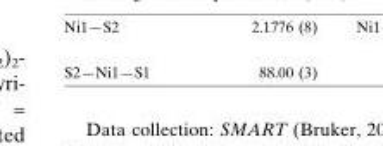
<table><tbody><tr><td>S2—Ni1—S1</td><td>88.00 (3)</td></tr></tbody></table>